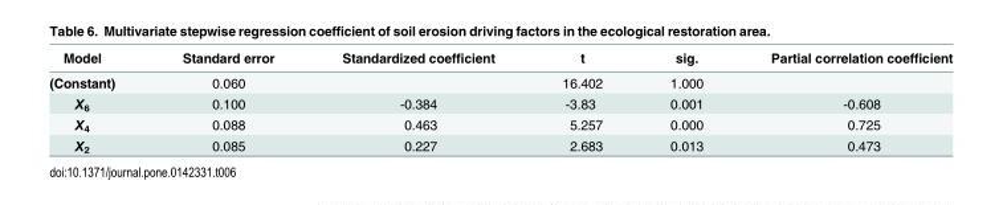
<table><thead><tr><td>Model</td><td>Standard error</td><td>Standardized coefficient</td><td>t</td><td>sig.</td><td>Partial correlation coefficient</td></tr></thead><tbody><tr><td>(Constant)</td><td>0.060</td><td></td><td>16.402</td><td>1.000</td><td></td></tr><tr><td>X<sub>6</sub></td><td>0.100</td><td>-0.384</td><td>-3.83</td><td>0.001</td><td>-0.608</td></tr><tr><td>X<sub>4</sub></td><td>0.088</td><td>0.463</td><td>5.257</td><td>0.000</td><td>0.725</td></tr><tr><td>X<sub>2</sub></td><td>0.085</td><td>0.227</td><td>2.683</td><td>0.013</td><td>0.473</td></tr></tbody></table>